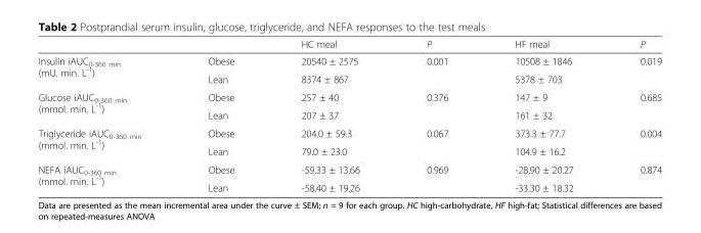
<table><thead><tr><td></td><td></td><td>HC meal</td><td>P</td><td>HF meal</td><td>P</td></tr></thead><tbody><tr><td rowspan="2">Insulin iAUC<sub>0-360 min</sub> (mU. min. L<sup>-1</sup>)</td><td>Obese</td><td>20540 ± 2575</td><td rowspan="2">0.001</td><td>10508 ± 1846</td><td rowspan="2">0.019</td></tr><tr><td>Lean</td><td>8374 ± 867</td><td>5378 ± 703</td></tr><tr><td rowspan="2">Glucose iAUC<sub>0-360 min</sub> (mmol. min. L<sup>-1</sup>)</td><td>Obese</td><td>257 ± 40</td><td rowspan="2">0.376</td><td>147 ± 9</td><td rowspan="2">0.685</td></tr><tr><td>Lean</td><td>207 ± 37</td><td>161 ± 32</td></tr><tr><td rowspan="2">Triglyceride iAUC<sub>0-360 min</sub> (mmol. min. L<sup>-1</sup>)</td><td>Obese</td><td>204.0 ± 59.3</td><td rowspan="2">0.067</td><td>373.3 ± 77.7</td><td rowspan="2">0.004</td></tr><tr><td>Lean</td><td>79.0 ± 23.0</td><td>104.9 ± 16.2</td></tr><tr><td rowspan="2">NEFA iAUC<sub>0-360 min</sub> (mmol. min. L<sup>-1</sup>)</td><td>Obese</td><td>-59.33 ± 13.66</td><td rowspan="2">0.969</td><td>-28.90 ± 20.27</td><td rowspan="2">0.874</td></tr><tr><td>Lean</td><td>-58.40 ± 19.26</td><td>-33.30 ± 18.32</td></tr></tbody></table>